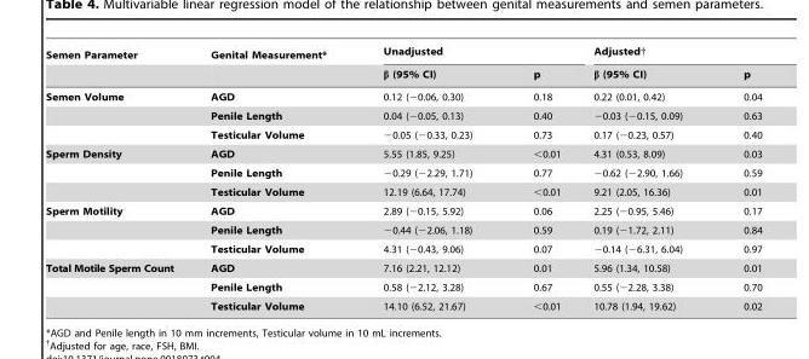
<table><thead><tr><td rowspan="2">Semen Parameter</td><td rowspan="2">Genital Measurement*</td><td colspan="2">Unadjusted</td><td colspan="2">Adjusted†</td></tr><tr><td>β (95% CI)</td><td>p</td><td>β (95% CI)</td><td>p</td></tr></thead><tbody><tr><td rowspan="3">Semen Volume</td><td>AGD</td><td>0.12 (−0.06, 0.30)</td><td>0.18</td><td>0.22 (0.01, 0.42)</td><td>0.04</td></tr><tr><td>Penile Length</td><td>0.04 (−0.05, 0.13)</td><td>0.40</td><td>−0.03 (−0.15, 0.09)</td><td>0.63</td></tr><tr><td>Testicular Volume</td><td>−0.05 (−0.33, 0.23)</td><td>0.73</td><td>0.17 (−0.23, 0.57)</td><td>0.40</td></tr><tr><td rowspan="3">Sperm Density</td><td>AGD</td><td>5.55 (1.85, 9.25)</td><td>&lt;0.01</td><td>4.31 (0.53, 8.09)</td><td>0.03</td></tr><tr><td>Penile Length</td><td>−0.29 (−2.29, 1.71)</td><td>0.77</td><td>−0.62 (−2.90, 1.66)</td><td>0.59</td></tr><tr><td>Testicular Volume</td><td>12.19 (6.64, 17.74)</td><td>&lt;0.01</td><td>9.21 (2.05, 16.36)</td><td>0.01</td></tr><tr><td rowspan="3">Sperm Motility</td><td>AGD</td><td>2.89 (−0.15, 5.92)</td><td>0.06</td><td>2.25 (−0.95, 5.46)</td><td>0.17</td></tr><tr><td>Penile Length</td><td>−0.44 (−2.06, 1.18)</td><td>0.59</td><td>0.19 (−1.72, 2.11)</td><td>0.84</td></tr><tr><td>Testicular Volume</td><td>4.31 (−0.43, 9.06)</td><td>0.07</td><td>−0.14 (−6.31, 6.04)</td><td>0.97</td></tr><tr><td rowspan="3">Total Motile Sperm Count</td><td>AGD</td><td>7.16 (2.21, 12.12)</td><td>0.01</td><td>5.96 (1.34, 10.58)</td><td>0.01</td></tr><tr><td>Penile Length</td><td>0.58 (−2.12, 3.28)</td><td>0.67</td><td>0.55 (−2.28, 3.38)</td><td>0.70</td></tr><tr><td>Testicular Volume</td><td>14.10 (6.52, 21.67)</td><td>&lt;0.01</td><td>10.78 (1.94, 19.62)</td><td>0.02</td></tr></tbody></table>